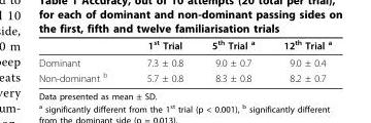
<table><thead><tr><td></td><td>1<sup>st</sup> Trial</td><td>5<sup>th</sup> Trial <sup>a</sup></td><td>12<sup>th</sup> Trial <sup>a</sup></td></tr></thead><tbody><tr><td>Dominant</td><td>7.3 ± 0.8</td><td>9.0 ± 0.7</td><td>9.0 ± 0.4</td></tr><tr><td>Non-dominant <sup>b</sup></td><td>5.7 ± 0.8</td><td>8.3 ± 0.8</td><td>8.2 ± 0.7</td></tr></tbody></table>